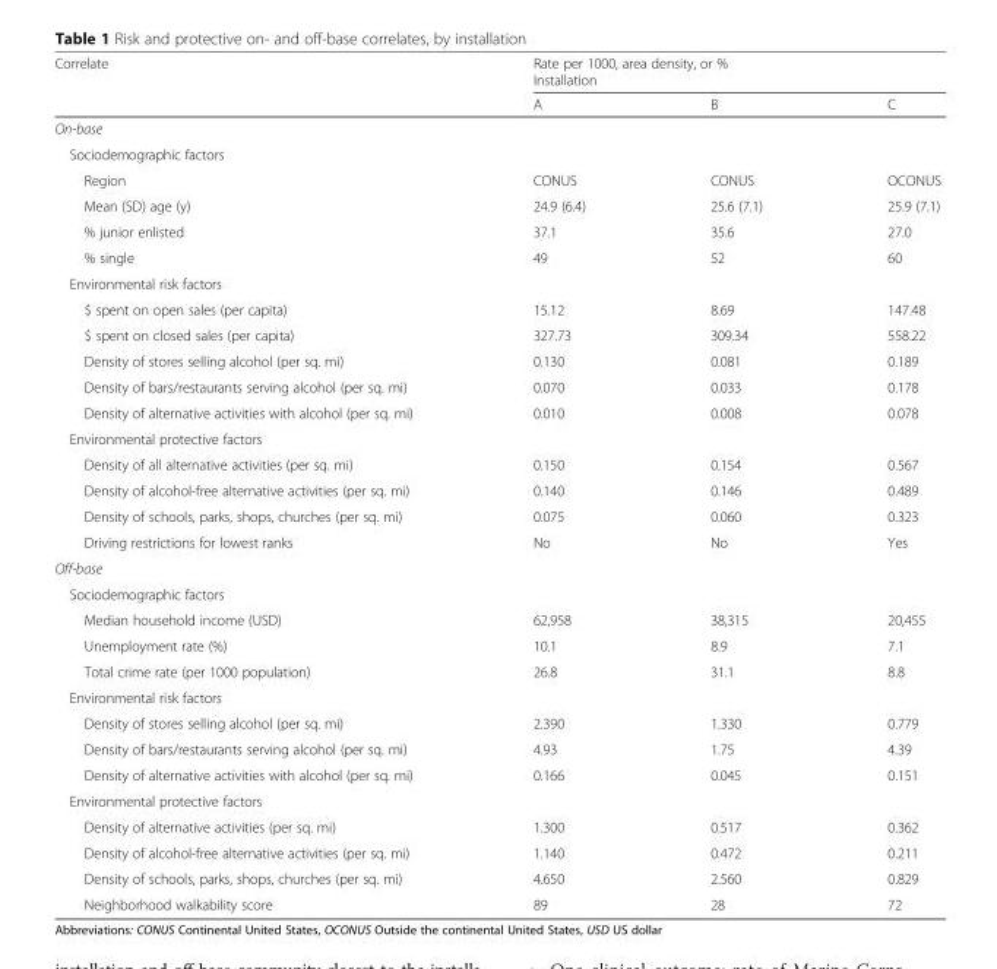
<table><thead><tr><td rowspan="3">Correlate</td><td rowspan="2" colspan="3">Rate per 1000, area density, or % Installation</td></tr><tr></tr><tr><td>A</td><td>B</td><td>C</td></tr></thead><tbody><tr><td colspan="4">On-base</td></tr><tr><td colspan="4">Sociodemographic factors</td></tr><tr><td>Region</td><td>CONUS</td><td>CONUS</td><td>OCONUS</td></tr><tr><td>Mean (SD) age (y)</td><td>24.9 (6.4)</td><td>25.6 (7.1)</td><td>25.9 (7.1)</td></tr><tr><td>% junior enlisted</td><td>37.1</td><td>35.6</td><td>27.0</td></tr><tr><td>% single</td><td>49</td><td>52</td><td>60</td></tr><tr><td colspan="4">Environmental risk factors</td></tr><tr><td>$ spent on open sales (per capita)</td><td>15.12</td><td>8.69</td><td>147.48</td></tr><tr><td>$ spent on closed sales (per capita)</td><td>327.73</td><td>309.34</td><td>558.22</td></tr><tr><td>Density of stores selling alcohol (per sq. mi)</td><td>0.130</td><td>0.081</td><td>0.189</td></tr><tr><td>Density of bars/restaurants serving alcohol (per sq. mi)</td><td>0.070</td><td>0.033</td><td>0.178</td></tr><tr><td>Density of alternative activities with alcohol (per sq. mi)</td><td>0.010</td><td>0.008</td><td>0.078</td></tr><tr><td colspan="4">Environmental protective factors</td></tr><tr><td>Density of all alternative activities (per sq. mi)</td><td>0.150</td><td>0.154</td><td>0.567</td></tr><tr><td>Density of alcohol-free alternative activities (per sq. mi)</td><td>0.140</td><td>0.146</td><td>0.489</td></tr><tr><td>Density of schools, parks, shops, churches (per sq. mi)</td><td>0.075</td><td>0.060</td><td>0.323</td></tr><tr><td>Driving restrictions for lowest ranks</td><td>No</td><td>No</td><td>Yes</td></tr><tr><td colspan="4">Off-base</td></tr><tr><td colspan="4">Sociodemographic factors</td></tr><tr><td>Median household income (USD)</td><td>62,958</td><td>38,315</td><td>20,455</td></tr><tr><td>Unemployment rate (%)</td><td>10.1</td><td>8.9</td><td>7.1</td></tr><tr><td>Total crime rate (per 1000 population)</td><td>26.8</td><td>31.1</td><td>8.8</td></tr><tr><td colspan="4">Environmental risk factors</td></tr><tr><td>Density of stores selling alcohol (per sq. mi)</td><td>2.390</td><td>1.330</td><td>0.779</td></tr><tr><td>Density of bars/restaurants serving alcohol (per sq. mi)</td><td>4.93</td><td>1.75</td><td>4.39</td></tr><tr><td>Density of alternative activities with alcohol (per sq. mi)</td><td>0.166</td><td>0.045</td><td>0.151</td></tr><tr><td colspan="4">Environmental protective factors</td></tr><tr><td>Density of alternative activities (per sq. mi)</td><td>1.300</td><td>0.517</td><td>0.362</td></tr><tr><td>Density of alcohol-free alternative activities (per sq. mi)</td><td>1.140</td><td>0.472</td><td>0.211</td></tr><tr><td>Density of schools, parks, shops, churches (per sq. mi)</td><td>4.650</td><td>2.560</td><td>0.829</td></tr><tr><td>Neighborhood walkability score</td><td>89</td><td>28</td><td>72</td></tr></tbody></table>